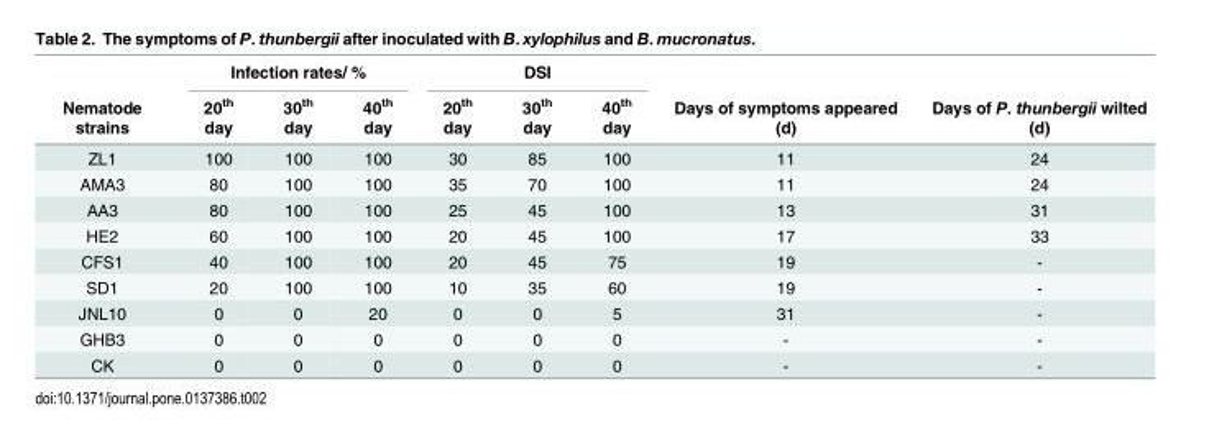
<table><thead><tr><td rowspan="2">Nematode strains</td><td colspan="3">Infection rates/ %</td><td colspan="3">DSI</td><td rowspan="2">Days of symptoms appeared (d)</td><td rowspan="2">Days of P. thunbergii wilted (d)</td></tr><tr><td>20<sup>th</sup> day</td><td>30<sup>th</sup> day</td><td>40<sup>th</sup> day</td><td>20<sup>th</sup> day</td><td>30<sup>th</sup> day</td><td>40<sup>th</sup> day</td></tr></thead><tbody><tr><td>ZL1</td><td>100</td><td>100</td><td>100</td><td>30</td><td>85</td><td>100</td><td>11</td><td>24</td></tr><tr><td>AMA3</td><td>80</td><td>100</td><td>100</td><td>35</td><td>70</td><td>100</td><td>11</td><td>24</td></tr><tr><td>AA3</td><td>80</td><td>100</td><td>100</td><td>25</td><td>45</td><td>100</td><td>13</td><td>31</td></tr><tr><td>HE2</td><td>60</td><td>100</td><td>100</td><td>20</td><td>45</td><td>100</td><td>17</td><td>33</td></tr><tr><td>CFS1</td><td>40</td><td>100</td><td>100</td><td>20</td><td>45</td><td>75</td><td>19</td><td>-</td></tr><tr><td>SD1</td><td>20</td><td>100</td><td>100</td><td>10</td><td>35</td><td>60</td><td>19</td><td>-</td></tr><tr><td>JNL10</td><td>0</td><td>0</td><td>20</td><td>0</td><td>0</td><td>5</td><td>31</td><td>-</td></tr><tr><td>GHB3</td><td>0</td><td>0</td><td>0</td><td>0</td><td>0</td><td>0</td><td>-</td><td>-</td></tr><tr><td>CK</td><td>0</td><td>0</td><td>0</td><td>0</td><td>0</td><td>0</td><td>-</td><td>-</td></tr></tbody></table>